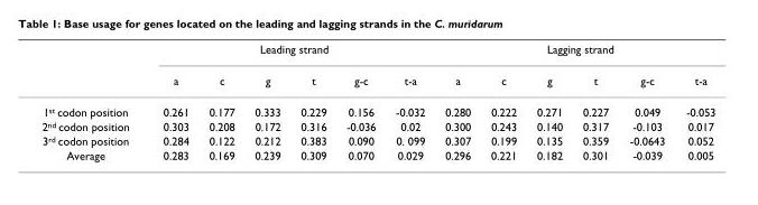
<table><thead><tr><td rowspan="2"></td><td colspan="6">Leading strand</td><td colspan="6">Lagging strand</td></tr><tr><td>a</td><td>c</td><td>g</td><td>t</td><td>g-c</td><td>t-a</td><td>a</td><td>c</td><td>g</td><td>t</td><td>g-c</td><td>t-a</td></tr></thead><tbody><tr><td>1<sup>st</sup> codon position</td><td>0.261</td><td>0.177</td><td>0.333</td><td>0.229</td><td>0.156</td><td>-0.032</td><td>0.280</td><td>0.222</td><td>0.271</td><td>0.227</td><td>0.049</td><td>-0.053</td></tr><tr><td>2<sup>nd</sup> codon position</td><td>0.303</td><td>0.208</td><td>0.172</td><td>0.316</td><td>-0.036</td><td>0.02</td><td>0.300</td><td>0.243</td><td>0.140</td><td>0.317</td><td>-0.103</td><td>0.017</td></tr><tr><td>3<sup>rd</sup> codon position</td><td>0.284</td><td>0.122</td><td>0.212</td><td>0.383</td><td>0.090</td><td>0. 099</td><td>0.307</td><td>0.199</td><td>0.135</td><td>0.359</td><td>-0.0643</td><td>0.052</td></tr><tr><td>Average</td><td>0.283</td><td>0.169</td><td>0.239</td><td>0.309</td><td>0.070</td><td>0.029</td><td>0.296</td><td>0.221</td><td>0.182</td><td>0.301</td><td>-0.039</td><td>0.005</td></tr></tbody></table>